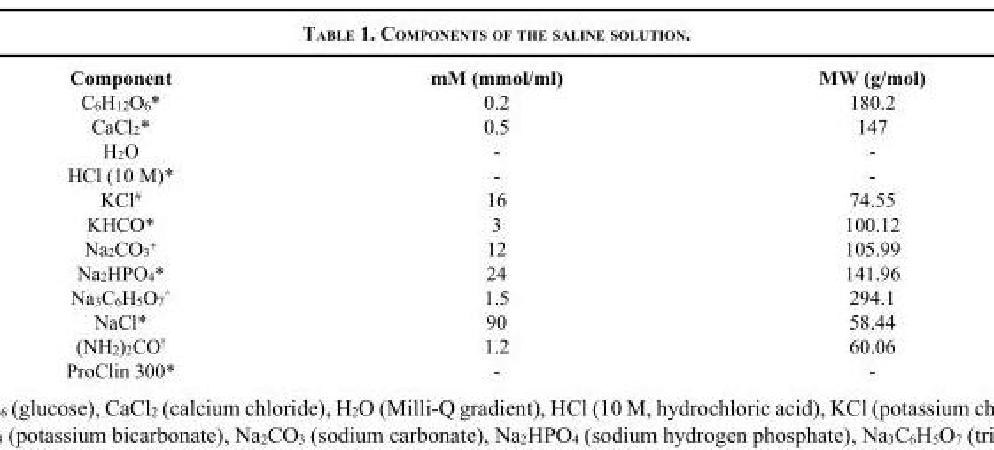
<table><thead><tr><td>Component</td><td>mM (mmol/ml)</td><td>MW (g/mol)</td></tr></thead><tbody><tr><td>C<sub>6</sub>H<sub>12</sub>O<sub>6</sub>*</td><td>0.2</td><td>180.2</td></tr><tr><td>CaCl<sub>2</sub>*</td><td>0.5</td><td>147</td></tr><tr><td>H<sub>2</sub>O</td><td>-</td><td>-</td></tr><tr><td>HCl (10 M)*</td><td>-</td><td>-</td></tr><tr><td>KCl<sup>#</sup></td><td>16</td><td>74.55</td></tr><tr><td>KHCO*</td><td>3</td><td>100.12</td></tr><tr><td>Na<sub>2</sub>CO<sub>3</sub><sup>+</sup></td><td>12</td><td>105.99</td></tr><tr><td>Na<sub>2</sub>HPO<sub>4</sub>*</td><td>24</td><td>141.96</td></tr><tr><td>Na<sub>3</sub>C<sub>6</sub>H<sub>5</sub>O<sub>7</sub><sup>^</sup></td><td>1.5</td><td>294.1</td></tr><tr><td>NaCl*</td><td>90</td><td>58.44</td></tr><tr><td>(NH<sub>2</sub>)<sub>2</sub>CO<sup>!</sup></td><td>1.2</td><td>60.06</td></tr><tr><td>ProClin 300*</td><td>-</td><td>-</td></tr></tbody></table>